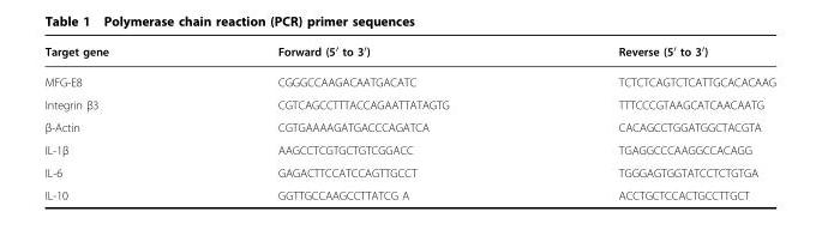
<table><thead><tr><td>Target gene</td><td>Forward (5′ to 3′)</td><td>Reverse (5′ to 3′)</td></tr></thead><tbody><tr><td>MFG-E8</td><td>CGGGCCAAGACAATGACATC</td><td>TCTCTCAGTCTCATTGCACACAAG</td></tr><tr><td>Integrin β3</td><td>CGTCAGCCTTTACCAGAATTATAGTG</td><td>TTTCCCGTAAGCATCAACAATG</td></tr><tr><td>β-Actin</td><td>CGTGAAAAGATGACCCAGATCA</td><td>CACAGCCTGGATGGCTACGTA</td></tr><tr><td>IL-1β</td><td>AAGCCTCGTGCTGTCGGACC</td><td>TGAGGCCCAAGGCCACAGG</td></tr><tr><td>IL-6</td><td>GAGACTTCCATCCAGTTGCCT</td><td>TGGGAGTGGTATCCTCTGTGA</td></tr><tr><td>IL-10</td><td>GGTTGCCAAGCCTTATCG A</td><td>ACCTGCTCCACTGCCTTGCT</td></tr></tbody></table>